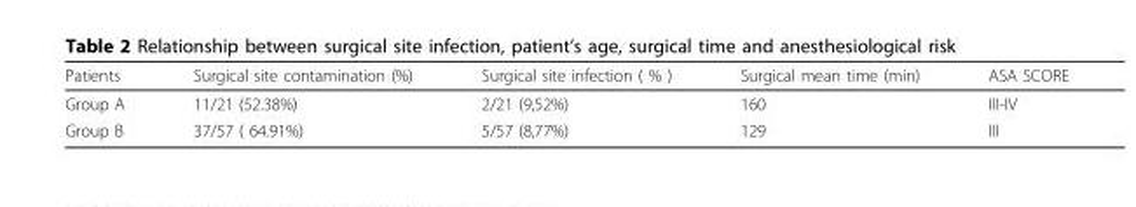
<table><thead><tr><td>Patients</td><td>Surgical site contamination (%)</td><td>Surgical site infection ( % )</td><td>Surgical mean time (min)</td><td>ASA SCORE</td></tr></thead><tbody><tr><td>Group A</td><td>11/21 (52.38%)</td><td>2/21 (9,52%)</td><td>160</td><td>III-IV</td></tr><tr><td>Group B</td><td>37/57 ( 64.91%)</td><td>5/57 (8,77%)</td><td>129</td><td>III</td></tr></tbody></table>